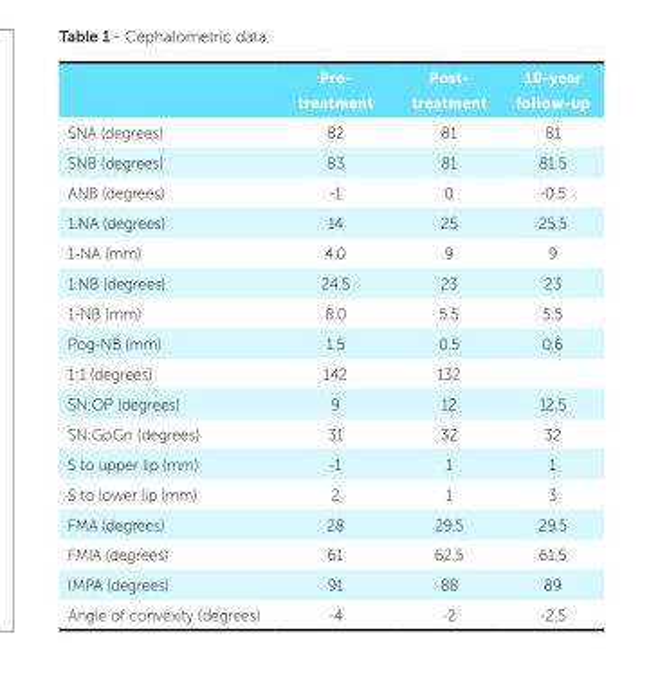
<table><thead><tr><td></td><td>Pre- treatment</td><td>Post- treatment</td><td>10-year follow-up</td></tr></thead><tbody><tr><td>SNA (degrees)</td><td>82</td><td>81</td><td>81</td></tr><tr><td>SNB (degrees)</td><td>83</td><td>81</td><td>81.5</td></tr><tr><td>ANB (degrees)</td><td>-1</td><td>0</td><td>-0.5</td></tr><tr><td>1.NA (degrees)</td><td>14</td><td>25</td><td>25.5</td></tr><tr><td>1-NA (mm)</td><td>4.0</td><td>9</td><td>9</td></tr><tr><td>1.NB (degrees)</td><td>24.5</td><td>23</td><td>23</td></tr><tr><td>1-NB (mm)</td><td>8.0</td><td>5.5</td><td>5.5</td></tr><tr><td>Pog-NB (mm)</td><td>1.5</td><td>0.5</td><td>0.6</td></tr><tr><td>1:1 (degrees)</td><td>142</td><td>132</td><td></td></tr><tr><td>SN:OP (degrees)</td><td>9</td><td>12</td><td>12.5</td></tr><tr><td>SN:GoGn (degrees)</td><td>31</td><td>32</td><td>32</td></tr><tr><td>S to upper lip (mm)</td><td>-1</td><td>1</td><td>1</td></tr><tr><td>S to lower lip (mm)</td><td>2</td><td>1</td><td>3</td></tr><tr><td>FMA (degrees)</td><td>28</td><td>29.5</td><td>29.5</td></tr><tr><td>FMIA (degrees)</td><td>61</td><td>62.5</td><td>61.5</td></tr><tr><td>IMPA (degrees)</td><td>91</td><td>88</td><td>89</td></tr><tr><td>Angle of convexity (degrees)</td><td>-4</td><td>-2</td><td>-2.5</td></tr></tbody></table>